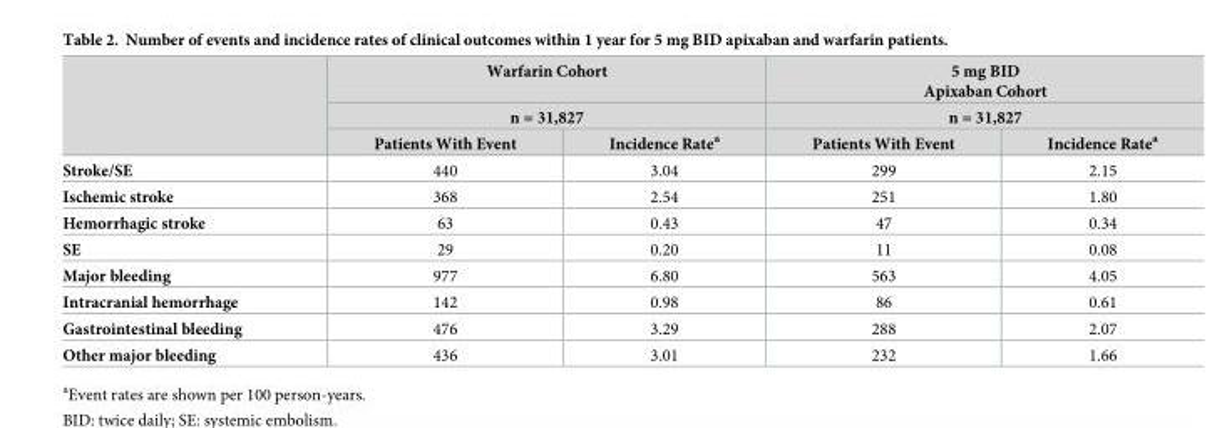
<table><thead><tr><td rowspan="3"></td><td rowspan="2" colspan="2">Warfarin Cohort n = 31,827</td><td rowspan="2" colspan="2">5 mg BID Apixaban Cohort n = 31,827</td></tr><tr></tr><tr><td>Patients With Event</td><td>Incidence Rate<sup>a</sup></td><td>Patients With Event</td><td>Incidence Rate<sup>a</sup></td></tr></thead><tbody><tr><td>Stroke/SE</td><td>440</td><td>3.04</td><td>299</td><td>2.15</td></tr><tr><td>Ischemic stroke</td><td>368</td><td>2.54</td><td>251</td><td>1.80</td></tr><tr><td>Hemorrhagic stroke</td><td>63</td><td>0.43</td><td>47</td><td>0.34</td></tr><tr><td>SE</td><td>29</td><td>0.20</td><td>11</td><td>0.08</td></tr><tr><td>Major bleeding</td><td>977</td><td>6.80</td><td>563</td><td>4.05</td></tr><tr><td>Intracranial hemorrhage</td><td>142</td><td>0.98</td><td>86</td><td>0.61</td></tr><tr><td>Gastrointestinal bleeding</td><td>476</td><td>3.29</td><td>288</td><td>2.07</td></tr><tr><td>Other major bleeding</td><td>436</td><td>3.01</td><td>232</td><td>1.66</td></tr></tbody></table>